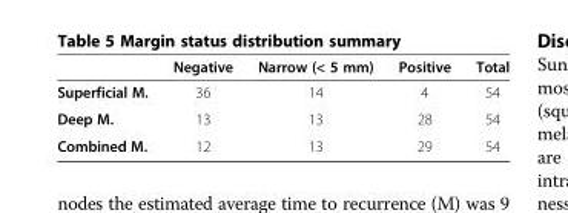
<table><thead><tr><td></td><td>Negative</td><td>Narrow (&lt; 5 mm)</td><td>Positive</td><td>Total</td></tr></thead><tbody><tr><td>Superficial M.</td><td>36</td><td>14</td><td>4</td><td>54</td></tr><tr><td>Deep M.</td><td>13</td><td>13</td><td>28</td><td>54</td></tr><tr><td>Combined M.</td><td>12</td><td>13</td><td>29</td><td>54</td></tr></tbody></table>